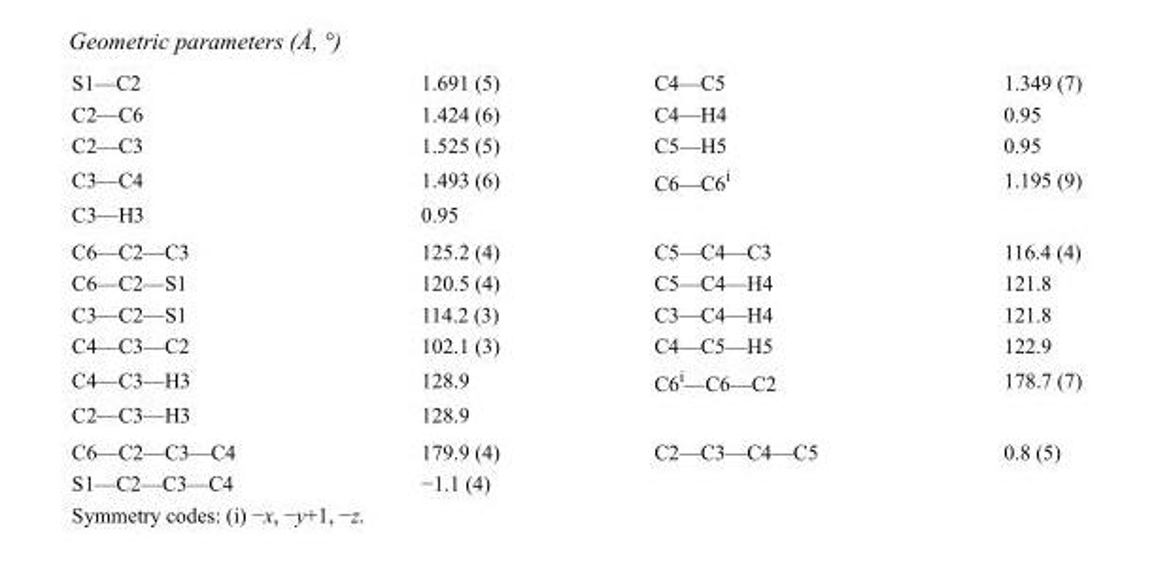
<table><tbody><tr><td>S1—C2</td><td>1.691 (5)</td><td>C4—C5</td><td>1.349 (7)</td></tr><tr><td>C2—C6</td><td>1.424 (6)</td><td>C4—H4</td><td>0.95</td></tr><tr><td>C2—C3</td><td>1.525 (5)</td><td>C5—H5</td><td>0.95</td></tr><tr><td>C3—C4</td><td>1.493 (6)</td><td>C6—C6<sup>i</sup></td><td>1.195 (9)</td></tr><tr><td>C3—H3</td><td>0.95</td><td></td><td></td></tr><tr><td>C6—C2—C3</td><td>125.2 (4)</td><td>C5—C4—C3</td><td>116.4 (4)</td></tr><tr><td>C6—C2—S1</td><td>120.5 (4)</td><td>C5—C4—H4</td><td>121.8</td></tr><tr><td>C3—C2—S1</td><td>114.2 (3)</td><td>C3—C4—H4</td><td>121.8</td></tr><tr><td>C4—C3—C2</td><td>102.1 (3)</td><td>C4—C5—H5</td><td>122.9</td></tr><tr><td>C4—C3—H3</td><td>128.9</td><td>C6<sup>i</sup>—C6—C2</td><td>178.7 (7)</td></tr><tr><td>C2—C3—H3</td><td>128.9</td><td></td><td></td></tr><tr><td>C6—C2—C3—C4</td><td>179.9 (4)</td><td>C2—C3—C4—C5</td><td>0.8 (5)</td></tr><tr><td>S1—C2—C3—C4</td><td>−1.1 (4)</td><td></td><td></td></tr></tbody></table>